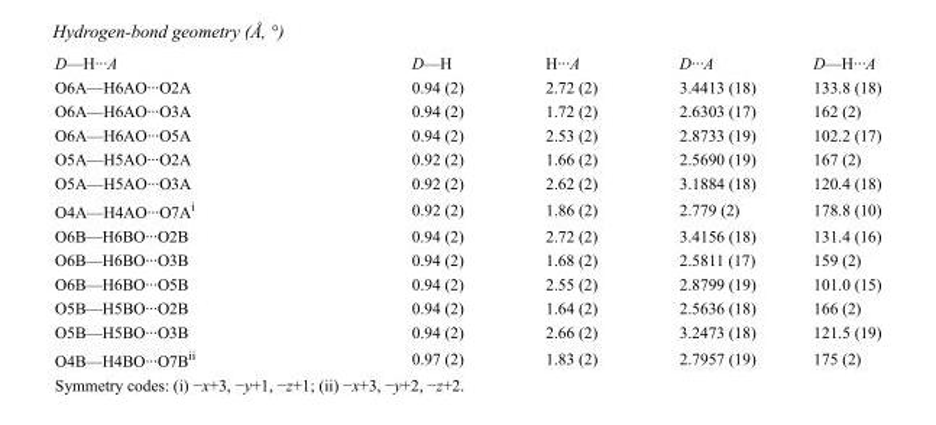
<table><tbody><tr><td>D—H···A</td><td>D—H</td><td>H···A</td><td>D···A</td><td>D—H···A</td></tr><tr><td>O6A—H6AO···O2A</td><td>0.94 (2)</td><td>2.72 (2)</td><td>3.4413 (18)</td><td>133.8 (18)</td></tr><tr><td>O6A—H6AO···O3A</td><td>0.94 (2)</td><td>1.72 (2)</td><td>2.6303 (17)</td><td>162 (2)</td></tr><tr><td>O6A—H6AO···O5A</td><td>0.94 (2)</td><td>2.53 (2)</td><td>2.8733 (19)</td><td>102.2 (17)</td></tr><tr><td>O5A—H5AO···O2A</td><td>0.92 (2)</td><td>1.66 (2)</td><td>2.5690 (19)</td><td>167 (2)</td></tr><tr><td>O5A—H5AO···O3A</td><td>0.92 (2)</td><td>2.62 (2)</td><td>3.1884 (18)</td><td>120.4 (18)</td></tr><tr><td>O4A—H4AO···O7A<sup>i</sup></td><td>0.92 (2)</td><td>1.86 (2)</td><td>2.779 (2)</td><td>178.8 (10)</td></tr><tr><td>O6B—H6BO···O2B</td><td>0.94 (2)</td><td>2.72 (2)</td><td>3.4156 (18)</td><td>131.4 (16)</td></tr><tr><td>O6B—H6BO···O3B</td><td>0.94 (2)</td><td>1.68 (2)</td><td>2.5811 (17)</td><td>159 (2)</td></tr><tr><td>O6B—H6BO···O5B</td><td>0.94 (2)</td><td>2.55 (2)</td><td>2.8799 (19)</td><td>101.0 (15)</td></tr><tr><td>O5B—H5BO···O2B</td><td>0.94 (2)</td><td>1.64 (2)</td><td>2.5636 (18)</td><td>166 (2)</td></tr><tr><td>O5B—H5BO···O3B</td><td>0.94 (2)</td><td>2.66 (2)</td><td>3.2473 (18)</td><td>121.5 (19)</td></tr><tr><td>O4B—H4BO···O7B<sup>ii</sup></td><td>0.97 (2)</td><td>1.83 (2)</td><td>2.7957 (19)</td><td>175 (2)</td></tr></tbody></table>